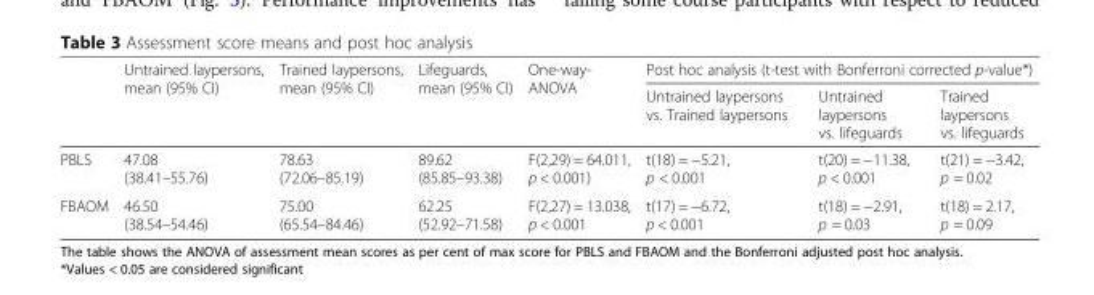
<table><thead><tr><td rowspan="2"></td><td rowspan="2">Untrained laypersons, mean (95% CI)</td><td rowspan="2">Trained laypersons, mean (95% CI)</td><td rowspan="2">Lifeguards, mean (95% CI)</td><td rowspan="2">One-way- ANOVA</td><td colspan="3">Post hoc analysis (t-test with Bonferroni corrected p-value*)</td></tr><tr><td>Untrained laypersons vs. Trained laypersons</td><td>Untrained laypersons vs. lifeguards</td><td>Trained laypersons vs. lifeguards</td></tr></thead><tbody><tr><td>PBLS</td><td>47.08 (38.41–55.76)</td><td>78.63 (72.06–85.19)</td><td>89.62 (85.85–93.38)</td><td>F(2,29) = 64.011, p &lt; 0.001)</td><td>t(18) = −5.21, p &lt; 0.001</td><td>t(20) = −11.38, p &lt; 0.001</td><td>t(21) = −3.42, p = 0.02</td></tr><tr><td>FBAOM</td><td>46.50 (38.54–54.46)</td><td>75.00 (65.54–84.46)</td><td>62.25 (52.92–71.58)</td><td>F(2,27) = 13.038, p &lt; 0.001</td><td>t(17) = −6.72, p &lt; 0.001</td><td>t(18) = −2.91, p = 0.03</td><td>t(18) = 2.17, p = 0.09</td></tr></tbody></table>